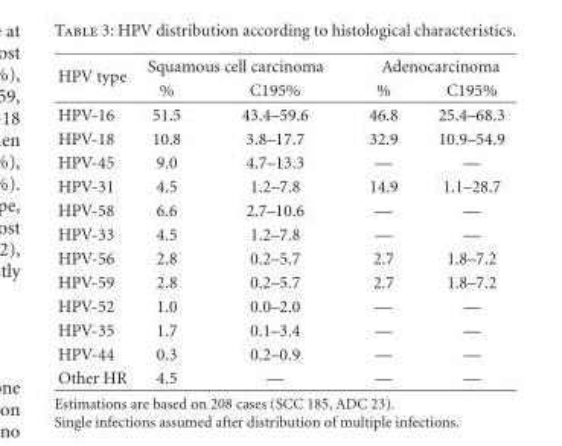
<table><thead><tr><td rowspan="2">HPV type</td><td colspan="2">Squamous cell carcinoma</td><td colspan="2">Adenocarcinoma</td></tr><tr><td>%</td><td>C195%</td><td>%</td><td>C195%</td></tr></thead><tbody><tr><td>HPV-16</td><td>51.5</td><td>43.4–59.6</td><td>46.8</td><td>25.4–68.3</td></tr><tr><td>HPV-18</td><td>10.8</td><td>3.8–17.7</td><td>32.9</td><td>10.9–54.9</td></tr><tr><td>HPV-45</td><td>9.0</td><td>4.7–13.3</td><td>—</td><td>—</td></tr><tr><td>HPV-31</td><td>4.5</td><td>1.2–7.8</td><td>14.9</td><td>1.1–28.7</td></tr><tr><td>HPV-58</td><td>6.6</td><td>2.7–10.6</td><td>—</td><td>—</td></tr><tr><td>HPV-33</td><td>4.5</td><td>1.2–7.8</td><td>—</td><td>—</td></tr><tr><td>HPV-56</td><td>2.8</td><td>0.2–5.7</td><td>2.7</td><td>1.8–7.2</td></tr><tr><td>HPV-59</td><td>2.8</td><td>0.2–5.7</td><td>2.7</td><td>1.8–7.2</td></tr><tr><td>HPV-52</td><td>1.0</td><td>0.0–2.0</td><td>—</td><td>—</td></tr><tr><td>HPV-35</td><td>1.7</td><td>0.1–3.4</td><td>—</td><td>—</td></tr><tr><td>HPV-44</td><td>0.3</td><td>0.2–0.9</td><td>—</td><td>—</td></tr><tr><td>Other HR</td><td>4.5</td><td>—</td><td>—</td><td>—</td></tr></tbody></table>